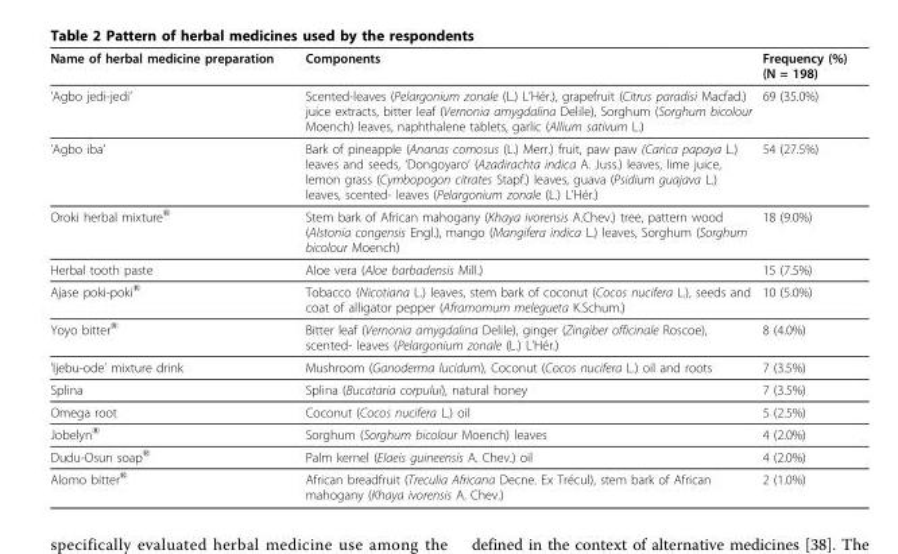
<table><thead><tr><td>Name of herbal medicine preparation</td><td>Components</td><td>Frequency (%) (N = 198)</td></tr></thead><tbody><tr><td>’Agbo jedi-jedi’</td><td>Scented-leaves (Pelargonium zonale (L.) L’Hér.), grapefruit (Citrus paradisi Macfad.) juice extracts, bitter leaf (Vernonia amygdalina Delile), Sorghum (Sorghum bicolour Moench) leaves, naphthalene tablets, garlic (Allium sativum L.)</td><td>69 (35.0%)</td></tr><tr><td>’Agbo iba’</td><td>Bark of pineapple (Ananas comosus (L.) Merr.) fruit, paw paw (Carica papaya L.) leaves and seeds, ‘Dongoyaro’ (Azadirachta indica A. Juss.) leaves, lime juice, lemon grass (Cymbopogon citrates Stapf.) leaves, guava (Psidium guajava L.) leaves, scented- leaves (Pelargonium zonale (L.) L’Hér.)</td><td>54 (27.5%)</td></tr><tr><td>Oroki herbal mixture<sup>®</sup></td><td>Stem bark of African mahogany (Khaya ivorensis A.Chev.) tree, pattern wood (Alstonia congensis Engl.), mango (Mangifera indica L.) leaves, Sorghum (Sorghum bicolour Moench)</td><td>18 (9.0%)</td></tr><tr><td>Herbal tooth paste</td><td>Aloe vera (Aloe barbadensis Mill.)</td><td>15 (7.5%)</td></tr><tr><td>Ajase poki-poki<sup>®</sup></td><td>Tobacco (Nicotiana L.) leaves, stem bark of coconut (Cocos nucifera L.), seeds and coat of alligator pepper (Aframomum melegueta K.Schum.)</td><td>10 (5.0%)</td></tr><tr><td>Yoyo bitter<sup>®</sup></td><td>Bitter leaf (Vernonia amygdalina Delile), ginger (Zingiber officinale Roscoe), scented- leaves (Pelargonium zonale (L.) L’Hér.)</td><td>8 (4.0%)</td></tr><tr><td>’Ijebu-ode’ mixture drink</td><td>Mushroom (Ganoderma lucidum), Coconut (Cocos nucifera L.) oil and roots</td><td>7 (3.5%)</td></tr><tr><td>Splina</td><td>Splina (Bucataria corpului), natural honey</td><td>7 (3.5%)</td></tr><tr><td>Omega root</td><td>Coconut (Cocos nucifera L.) oil</td><td>5 (2.5%)</td></tr><tr><td>Jobelyn<sup>®</sup></td><td>Sorghum (Sorghum bicolour Moench) leaves</td><td>4 (2.0%)</td></tr><tr><td>Dudu-Osun soap<sup>®</sup></td><td>Palm kernel (Elaeis guineensis A. Chev.) oil</td><td>4 (2.0%)</td></tr><tr><td>Alomo bitter<sup>®</sup></td><td>African breadfruit (Treculia Africana Decne. Ex Trécul), stem bark of African mahogany (Khaya ivorensis A. Chev.)</td><td>2 (1.0%)</td></tr></tbody></table>